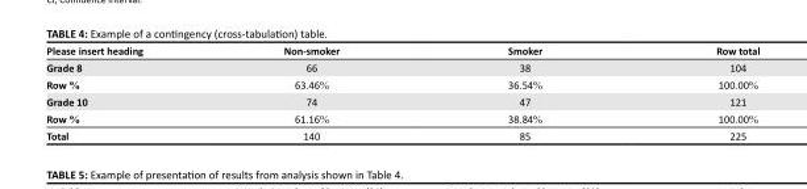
<table><thead><tr><td>Please insert heading</td><td>Non-smoker</td><td>Smoker</td><td>Row total</td></tr></thead><tbody><tr><td>Grade 8</td><td>66</td><td>38</td><td>104</td></tr><tr><td>Row %</td><td>63.46%</td><td>36.54%</td><td>100.00%</td></tr><tr><td>Grade 10</td><td>74</td><td>47</td><td>121</td></tr><tr><td>Row %</td><td>61.16%</td><td>38.84%</td><td>100.00%</td></tr><tr><td>Total</td><td>140</td><td>85</td><td>225</td></tr></tbody></table>